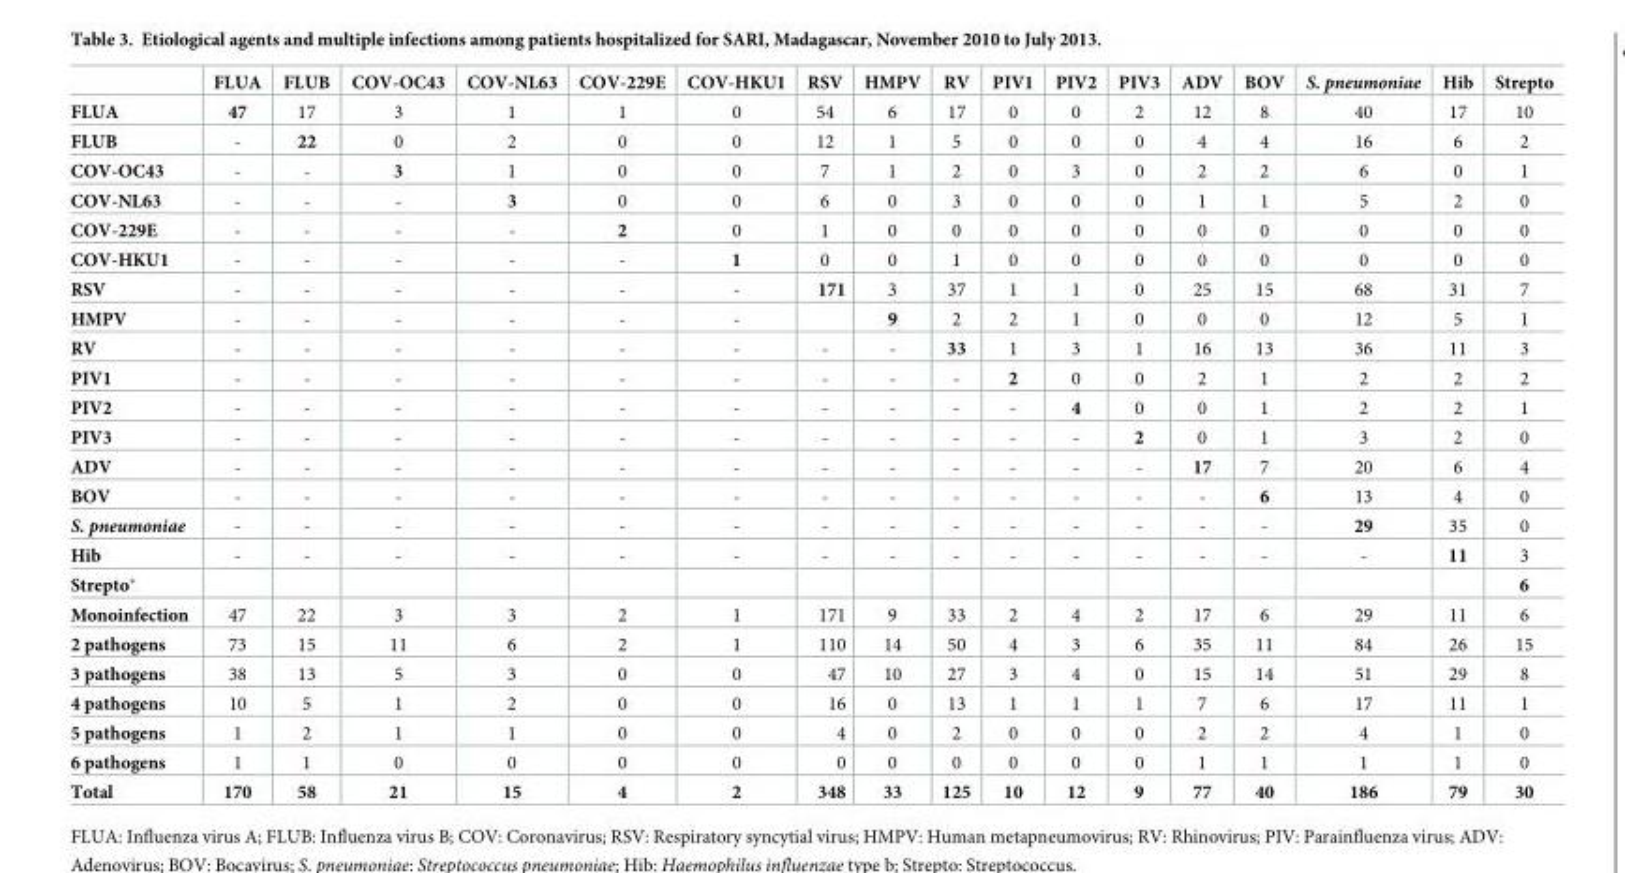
<table><thead><tr><td></td><td>FLUA</td><td>FLUB</td><td>COV-OC43</td><td>COV-NL63</td><td>COV-229E</td><td>COV-HKU1</td><td>RSV</td><td>HMPV</td><td>RV</td><td>PIV1</td><td>PIV2</td><td>PIV3</td><td>ADV</td><td>BOV</td><td>S. pneumoniae</td><td>Hib</td><td>Strepto</td></tr></thead><tbody><tr><td>FLUA</td><td>47</td><td>17</td><td>3</td><td>1</td><td>1</td><td>0</td><td>54</td><td>6</td><td>17</td><td>0</td><td>0</td><td>2</td><td>12</td><td>8</td><td>40</td><td>17</td><td>10</td></tr><tr><td>FLUB</td><td>-</td><td>22</td><td>0</td><td>2</td><td>0</td><td>0</td><td>12</td><td>1</td><td>5</td><td>0</td><td>0</td><td>0</td><td>4</td><td>4</td><td>16</td><td>6</td><td>2</td></tr><tr><td>COV-OC43</td><td>-</td><td>-</td><td>3</td><td>1</td><td>0</td><td>0</td><td>7</td><td>1</td><td>2</td><td>0</td><td>3</td><td>0</td><td>2</td><td>2</td><td>6</td><td>0</td><td>1</td></tr><tr><td>COV-NL63</td><td>-</td><td>-</td><td>-</td><td>3</td><td>0</td><td>0</td><td>6</td><td>0</td><td>3</td><td>0</td><td>0</td><td>0</td><td>1</td><td>1</td><td>5</td><td>2</td><td>0</td></tr><tr><td>COV-229E</td><td>-</td><td>-</td><td>-</td><td>-</td><td>2</td><td>0</td><td>1</td><td>0</td><td>0</td><td>0</td><td>0</td><td>0</td><td>0</td><td>0</td><td>0</td><td>0</td><td>0</td></tr><tr><td>COV-HKU1</td><td>-</td><td>-</td><td>-</td><td>-</td><td>-</td><td>1</td><td>0</td><td>0</td><td>1</td><td>0</td><td>0</td><td>0</td><td>0</td><td>0</td><td>0</td><td>0</td><td>0</td></tr><tr><td>RSV</td><td>-</td><td>-</td><td>-</td><td>-</td><td>-</td><td>-</td><td>171</td><td>3</td><td>37</td><td>1</td><td>1</td><td>0</td><td>25</td><td>15</td><td>68</td><td>31</td><td>7</td></tr><tr><td>HMPV</td><td>-</td><td>-</td><td>-</td><td>-</td><td>-</td><td>-</td><td></td><td>9</td><td>2</td><td>2</td><td>1</td><td>0</td><td>0</td><td>0</td><td>12</td><td>5</td><td>1</td></tr><tr><td>RV</td><td>-</td><td>-</td><td>-</td><td>-</td><td>-</td><td>-</td><td>-</td><td>-</td><td>33</td><td>1</td><td>3</td><td>1</td><td>16</td><td>13</td><td>36</td><td>11</td><td>3</td></tr><tr><td>PIV1</td><td>-</td><td>-</td><td>-</td><td>-</td><td>-</td><td>-</td><td>-</td><td>-</td><td>-</td><td>2</td><td>0</td><td>0</td><td>2</td><td>1</td><td>2</td><td>2</td><td>2</td></tr><tr><td>PIV2</td><td>-</td><td>-</td><td>-</td><td>-</td><td>-</td><td>-</td><td>-</td><td>-</td><td>-</td><td>-</td><td>4</td><td>0</td><td>0</td><td>1</td><td>2</td><td>2</td><td>1</td></tr><tr><td>PIV3</td><td>-</td><td>-</td><td>-</td><td>-</td><td>-</td><td>-</td><td>-</td><td>-</td><td>-</td><td>-</td><td>-</td><td>2</td><td>0</td><td>1</td><td>3</td><td>2</td><td>0</td></tr><tr><td>ADV</td><td>-</td><td>-</td><td>-</td><td>-</td><td>-</td><td>-</td><td>-</td><td>-</td><td>-</td><td>-</td><td>-</td><td>-</td><td>17</td><td>7</td><td>20</td><td>6</td><td>4</td></tr><tr><td>BOV</td><td>-</td><td>-</td><td>-</td><td>-</td><td>-</td><td>-</td><td>-</td><td>-</td><td>-</td><td>-</td><td>-</td><td>-</td><td>-</td><td>6</td><td>13</td><td>4</td><td>0</td></tr><tr><td>S. pneumoniae</td><td>-</td><td>-</td><td>-</td><td>-</td><td>-</td><td>-</td><td>-</td><td>-</td><td>-</td><td>-</td><td>-</td><td>-</td><td>-</td><td>-</td><td>29</td><td>35</td><td>0</td></tr><tr><td>Hib</td><td>-</td><td>-</td><td>-</td><td>-</td><td>-</td><td>-</td><td>-</td><td>-</td><td>-</td><td>-</td><td>-</td><td>-</td><td>-</td><td>-</td><td>-</td><td>11</td><td>3</td></tr><tr><td>Strepto*</td><td></td><td></td><td></td><td></td><td></td><td></td><td></td><td></td><td></td><td></td><td></td><td></td><td></td><td></td><td></td><td></td><td>6</td></tr><tr><td>Monoinfection</td><td>47</td><td>22</td><td>3</td><td>3</td><td>2</td><td>1</td><td>171</td><td>9</td><td>33</td><td>2</td><td>4</td><td>2</td><td>17</td><td>6</td><td>29</td><td>11</td><td>6</td></tr><tr><td>2 pathogens</td><td>73</td><td>15</td><td>11</td><td>6</td><td>2</td><td>1</td><td>110</td><td>14</td><td>50</td><td>4</td><td>3</td><td>6</td><td>35</td><td>11</td><td>84</td><td>26</td><td>15</td></tr><tr><td>3 pathogens</td><td>38</td><td>13</td><td>5</td><td>3</td><td>0</td><td>0</td><td>47</td><td>10</td><td>27</td><td>3</td><td>4</td><td>0</td><td>15</td><td>14</td><td>51</td><td>29</td><td>8</td></tr><tr><td>4 pathogens</td><td>10</td><td>5</td><td>1</td><td>2</td><td>0</td><td>0</td><td>16</td><td>0</td><td>13</td><td>1</td><td>1</td><td>1</td><td>7</td><td>6</td><td>17</td><td>11</td><td>1</td></tr><tr><td>5 pathogens</td><td>1</td><td>2</td><td>1</td><td>1</td><td>0</td><td>0</td><td>4</td><td>0</td><td>2</td><td>0</td><td>0</td><td>0</td><td>2</td><td>2</td><td>4</td><td>1</td><td>0</td></tr><tr><td>6 pathogens</td><td>1</td><td>1</td><td>0</td><td>0</td><td>0</td><td>0</td><td>0</td><td>0</td><td>0</td><td>0</td><td>0</td><td>0</td><td>1</td><td>1</td><td>1</td><td>1</td><td>0</td></tr><tr><td>Total</td><td>170</td><td>58</td><td>21</td><td>15</td><td>4</td><td>2</td><td>348</td><td>33</td><td>125</td><td>10</td><td>12</td><td>9</td><td>77</td><td>40</td><td>186</td><td>79</td><td>30</td></tr></tbody></table>